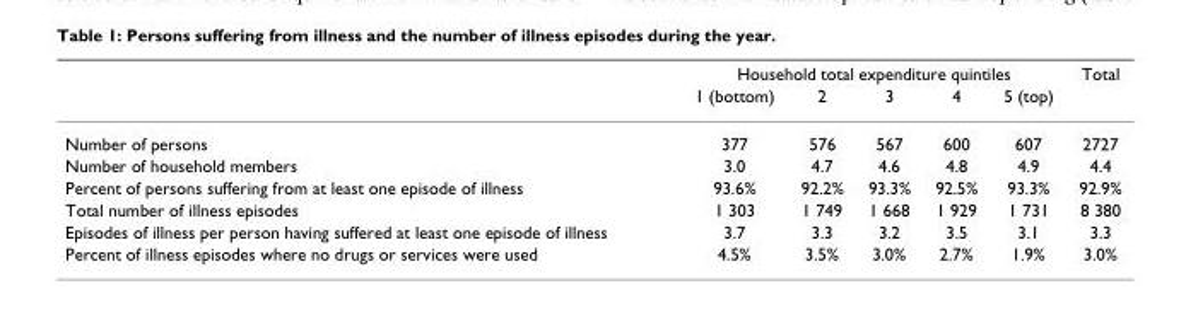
<table><thead><tr><td rowspan="2"></td><td colspan="5">Household total expenditure quintiles</td><td rowspan="2">Total</td></tr><tr><td>1 (bottom)</td><td>2</td><td>3</td><td>4</td><td>5 (top)</td></tr></thead><tbody><tr><td>Number of persons</td><td>377</td><td>576</td><td>567</td><td>600</td><td>607</td><td>2727</td></tr><tr><td>Number of household members</td><td>3.0</td><td>4.7</td><td>4.6</td><td>4.8</td><td>4.9</td><td>4.4</td></tr><tr><td>Percent of persons suffering from at least one episode of illness</td><td>93.6%</td><td>92.2%</td><td>93.3%</td><td>92.5%</td><td>93.3%</td><td>92.9%</td></tr><tr><td>Total number of illness episodes</td><td>1 303</td><td>1 749</td><td>1 668</td><td>1 929</td><td>1 731</td><td>8 380</td></tr><tr><td>Episodes of illness per person having suffered at least one episode of illness</td><td>3.7</td><td>3.3</td><td>3.2</td><td>3.5</td><td>3.1</td><td>3.3</td></tr><tr><td>Percent of illness episodes where no drugs or services were used</td><td>4.5%</td><td>3.5%</td><td>3.0%</td><td>2.7%</td><td>1.9%</td><td>3.0%</td></tr></tbody></table>